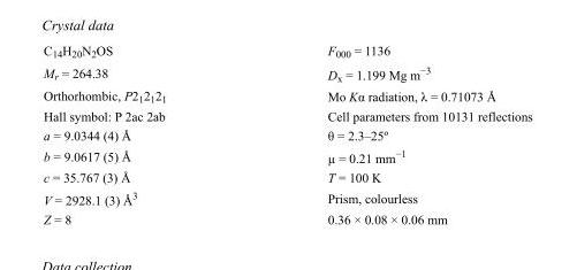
<table><tbody><tr><td>C<sub>14</sub>H<sub>20</sub>N<sub>2</sub>OS</td><td>F000 = 1136</td></tr><tr><td>M<sub>r</sub> = 264.38</td><td>D<sub>x</sub> = 1.199 Mg m<sup>−3</sup></td></tr><tr><td>Orthorhombic, P2<sub>1</sub>2<sub>1</sub>2<sub>1</sub></td><td>Mo Kα radiation, λ = 0.71073 Å</td></tr><tr><td>Hall symbol: P 2ac 2ab</td><td>Cell parameters from 10131 reflections</td></tr><tr><td>a = 9.0344 (4) Å</td><td>θ = 2.3–25º</td></tr><tr><td>b = 9.0617 (5) Å</td><td>µ = 0.21 mm<sup>−1</sup></td></tr><tr><td>c = 35.767 (3) Å</td><td>T = 100 K</td></tr><tr><td>V = 2928.1 (3) Å<sup>3</sup></td><td>Prism, colourless</td></tr><tr><td>Z = 8</td><td>0.36 × 0.08 × 0.06 mm</td></tr></tbody></table>